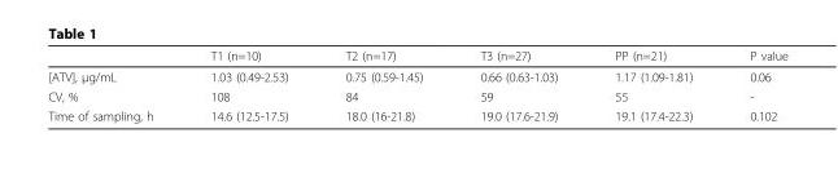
<table><thead><tr><td></td><td>T1 (n=10)</td><td>T2 (n=17)</td><td>T3 (n=27)</td><td>PP (n=21)</td><td>P value</td></tr></thead><tbody><tr><td>[ATV], µg/mL</td><td>1.03 (0.49-2.53)</td><td>0.75 (0.59-1.45)</td><td>0.66 (0.63-1.03)</td><td>1.17 (1.09-1.81)</td><td>0.06</td></tr><tr><td>CV, %</td><td>108</td><td>84</td><td>59</td><td>55</td><td>-</td></tr><tr><td>Time of sampling, h</td><td>14.6 (12.5-17.5)</td><td>18.0 (16-21.8)</td><td>19.0 (17.6-21.9)</td><td>19.1 (17.4-22.3)</td><td>0.102</td></tr></tbody></table>